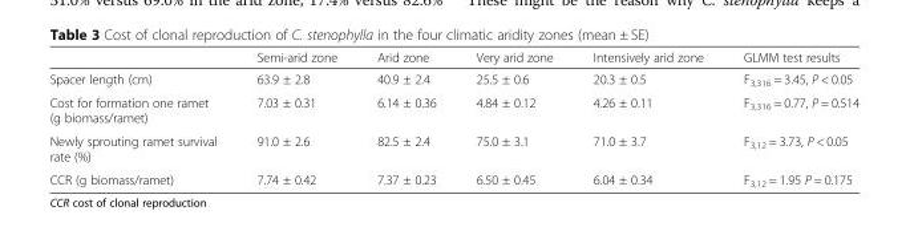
<table><thead><tr><td></td><td>Semi-arid zone</td><td>Arid zone</td><td>Very arid zone</td><td>Intensively arid zone</td><td>GLMM test results</td></tr></thead><tbody><tr><td>Spacer length (cm)</td><td>63.9 ± 2.8</td><td>40.9 ± 2.4</td><td>25.5 ± 0.6</td><td>20.3 ± 0.5</td><td>F<sub>3,316</sub> = 3.45, P &lt; 0.05</td></tr><tr><td>Cost for formation one ramet (g biomass/ramet)</td><td>7.03 ± 0.31</td><td>6.14 ± 0.36</td><td>4.84 ± 0.12</td><td>4.26 ± 0.11</td><td>F<sub>3,316</sub> = 0.77, P = 0.514</td></tr><tr><td>Newly sprouting ramet survival rate (%)</td><td>91.0 ± 2.6</td><td>82.5 ± 2.4</td><td>75.0 ± 3.1</td><td>71.0 ± 3.7</td><td>F<sub>3,12</sub> = 3.73, P &lt; 0.05</td></tr><tr><td>CCR (g biomass/ramet)</td><td>7.74 ± 0.42</td><td>7.37 ± 0.23</td><td>6.50 ± 0.45</td><td>6.04 ± 0.34</td><td>F<sub>3,12</sub> = 1.95 P = 0.175</td></tr></tbody></table>